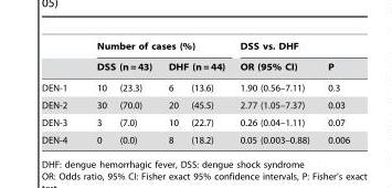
<table><thead><tr><td rowspan="3">DEN-1</td><td colspan="4">Number of cases (%)</td><td colspan="2">DSS vs. DHF</td></tr><tr><td colspan="2">DSS (n = 43)</td><td colspan="2">DHF (n = 44)</td><td rowspan="2">OR (95% CI) 1.90 (0.56–7.11)</td><td rowspan="2">P 0.3</td></tr><tr><td>10</td><td>(23.3)</td><td>6</td><td>(13.6)</td></tr></thead><tbody><tr><td>DEN-2</td><td>30</td><td>(70.0)</td><td>20</td><td>(45.5)</td><td>2.77 (1.05–7.37)</td><td>0.03</td></tr><tr><td>DEN-3</td><td>3</td><td>(7.0)</td><td>10</td><td>(22.7)</td><td>0.26 (0.04–1.11)</td><td>0.07</td></tr><tr><td>DEN-4</td><td>0</td><td>(0.0)</td><td>8</td><td>(18.2)</td><td>0.05 (0.003–0.88)</td><td>0.006</td></tr></tbody></table>